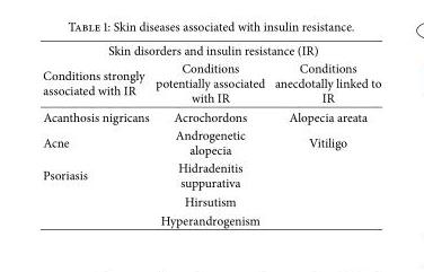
<table><thead><tr><td colspan="3">Skin disorders and insulin resistance (IR)</td></tr><tr><td>Conditions strongly associated with IR</td><td>Conditions potentially associated with IR</td><td>Conditions anecdotally linked to IR</td></tr></thead><tbody><tr><td>Acanthosis nigricans</td><td>Acrochordons</td><td>Alopecia areata</td></tr><tr><td>Acne</td><td>Androgenetic alopecia</td><td>Vitiligo</td></tr><tr><td rowspan="3">Psoriasis</td><td>Hidradenitis suppurativa</td><td></td></tr><tr><td>Hirsutism</td><td></td></tr><tr><td>Hyperandrogenism</td><td></td></tr></tbody></table>